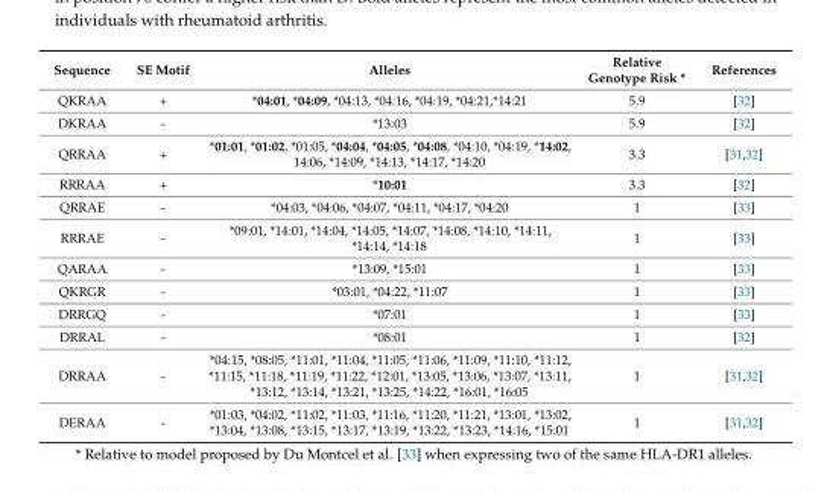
<table><thead><tr><td>Sequence</td><td>SE Motif</td><td>Alleles</td><td>Relative Genotype Risk *</td><td>References</td></tr></thead><tbody><tr><td>QKRAA</td><td>+</td><td>*04:01, *04:09, *04:13, *04:16, *04:19, *04:21,*14:21</td><td>5.9</td><td>[32]</td></tr><tr><td>DKRAA</td><td>-</td><td>*13:03</td><td>5.9</td><td>[32]</td></tr><tr><td>QRRAA</td><td>+</td><td>*01:01, *01:02, *01:05, *04:04, *04:05, *04:08, *04:10, *04:19, *14:02, 14:06, *14:09, *14:13, *14:17, *14:20</td><td>3.3</td><td>[31,32]</td></tr><tr><td>RRRAA</td><td>+</td><td>*10:01</td><td>3.3</td><td>[32]</td></tr><tr><td>QRRAE</td><td>-</td><td>*04:03, *04:06, *04:07, *04:11, *04:17, *04:20</td><td>1</td><td>[33]</td></tr><tr><td>RRRAE</td><td>-</td><td>*09:01, *14:01, *14:04, *14:05, *14:07, *14:08, *14:10, *14:11, *14:14, *14:18</td><td>1</td><td>[33]</td></tr><tr><td>QARAA</td><td>-</td><td>*13:09, *15:01</td><td>1</td><td>[33]</td></tr><tr><td>QKRGR</td><td>-</td><td>*03:01, *04:22, *11:07</td><td>1</td><td>[33]</td></tr><tr><td>DRRGQ</td><td>-</td><td>*07:01</td><td>1</td><td>[33]</td></tr><tr><td>DRRAL</td><td>-</td><td>*08:01</td><td>1</td><td>[32]</td></tr><tr><td>DRRAA</td><td>-</td><td>*04:15, *08:05, *11:01, *11:04, *11:05, *11:06, *11:09, *11:10, *11:12, *11:15, *11:18, *11:19, *11:22, *12:01, *13:05, *13:06, *13:07, *13:11, *13:12, *13:14, *13:21, *13:25, *14:22, *16:01, *16:05</td><td>1</td><td>[31,32]</td></tr><tr><td>DERAA</td><td>-</td><td>*01:03, *04:02, *11:02, *11:03, *11:16, *11:20, *11:21, *13:01, *13:02, *13:04, *13:08, *13:15, *13:17, *13:19, *13:22, *13:23, *14:16, *15:01</td><td>1</td><td>[31,32]</td></tr></tbody></table>